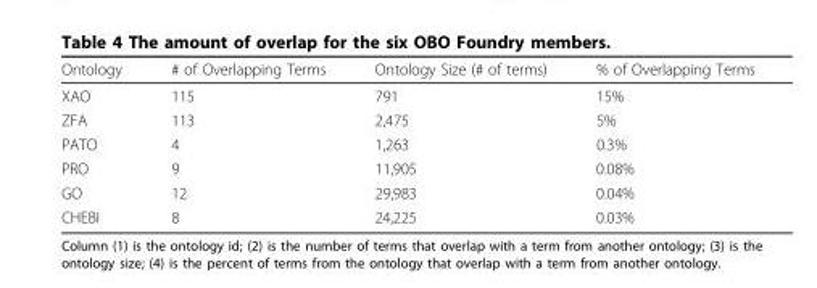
<table><thead><tr><td>Ontology</td><td># of Overlapping Terms</td><td>Ontology Size (# of terms)</td><td>% of Overlapping Terms</td></tr></thead><tbody><tr><td>XAO</td><td>115</td><td>791</td><td>15%</td></tr><tr><td>ZFA</td><td>113</td><td>2,475</td><td>5%</td></tr><tr><td>PATO</td><td>4</td><td>1,263</td><td>0.3%</td></tr><tr><td>PRO</td><td>9</td><td>11,905</td><td>0.08%</td></tr><tr><td>GO</td><td>12</td><td>29,983</td><td>0.04%</td></tr><tr><td>CHEBI</td><td>8</td><td>24,225</td><td>0.03%</td></tr></tbody></table>